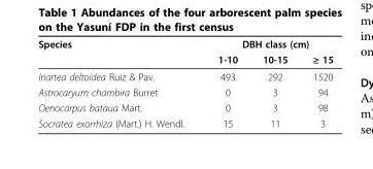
<table><thead><tr><td rowspan="2">Species</td><td colspan="3">DBH class (cm)</td></tr><tr><td>1-10</td><td>10-15</td><td>≥ 15</td></tr></thead><tbody><tr><td>Iriartea deltoidea Ruiz &amp; Pav.</td><td>493</td><td>292</td><td>1520</td></tr><tr><td>Astrocaryum chambira Burret</td><td>0</td><td>3</td><td>94</td></tr><tr><td>Oenocarpus bataua Mart.</td><td>0</td><td>3</td><td>98</td></tr><tr><td>Socratea exorrhiza (Mart.) H. Wendl.</td><td>15</td><td>11</td><td>3</td></tr></tbody></table>